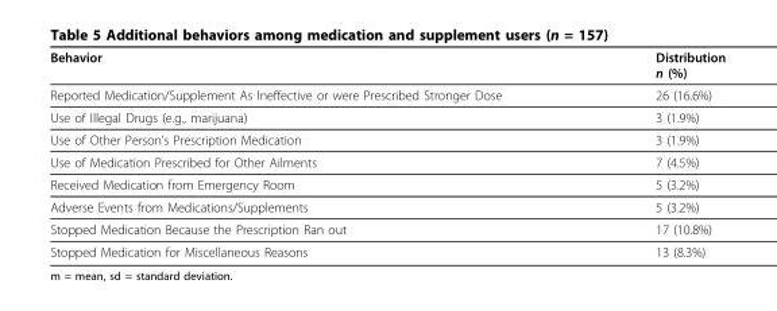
<table><thead><tr><td>Behavior</td><td>Distribution n (%)</td></tr></thead><tbody><tr><td>Reported Medication/Supplement As Ineffective or were Prescribed Stronger Dose</td><td>26 (16.6%)</td></tr><tr><td>Use of Illegal Drugs (e.g., marijuana)</td><td>3 (1.9%)</td></tr><tr><td>Use of Other Person’s Prescription Medication</td><td>3 (1.9%)</td></tr><tr><td>Use of Medication Prescribed for Other Ailments</td><td>7 (4.5%)</td></tr><tr><td>Received Medication from Emergency Room</td><td>5 (3.2%)</td></tr><tr><td>Adverse Events from Medications/Supplements</td><td>5 (3.2%)</td></tr><tr><td>Stopped Medication Because the Prescription Ran out</td><td>17 (10.8%)</td></tr><tr><td>Stopped Medication for Miscellaneous Reasons</td><td>13 (8.3%)</td></tr></tbody></table>